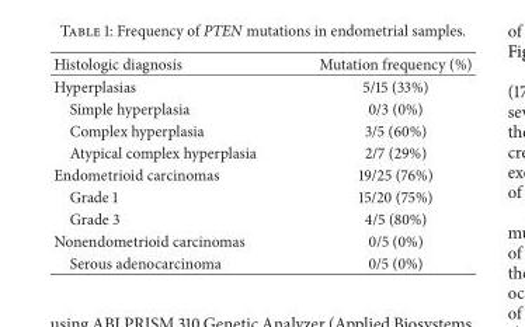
<table><thead><tr><td>Histologic diagnosis</td><td>Mutation frequency (%)</td></tr></thead><tbody><tr><td>Hyperplasias</td><td>5/15 (33%)</td></tr><tr><td>Simple hyperplasia</td><td>0/3 (0%)</td></tr><tr><td>Complex hyperplasia</td><td>3/5 (60%)</td></tr><tr><td>Atypical complex hyperplasia</td><td>2/7 (29%)</td></tr><tr><td>Endometrioid carcinomas</td><td>19/25 (76%)</td></tr><tr><td>Grade 1</td><td>15/20 (75%)</td></tr><tr><td>Grade 3</td><td>4/5 (80%)</td></tr><tr><td>Nonendometrioid carcinomas</td><td>0/5 (0%)</td></tr><tr><td>Serous adenocarcinoma</td><td>0/5 (0%)</td></tr></tbody></table>